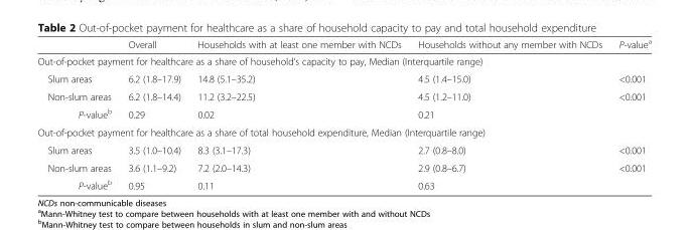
<table><thead><tr><td></td><td>Overall</td><td>Households with at least one member with NCDs</td><td>Households without any member with NCDs</td><td>P-value<sup>a</sup></td></tr></thead><tbody><tr><td colspan="5">Out-of-pocket payment for healthcare as a share of household’s capacity to pay, Median (Interquartile range)</td></tr><tr><td>Slum areas</td><td>6.2 (1.8–17.9)</td><td>14.8 (5.1–35.2)</td><td>4.5 (1.4–15.0)</td><td>&lt;0.001</td></tr><tr><td>Non-slum areas</td><td>6.2 (1.8–14.4)</td><td>11.2 (3.2–22.5)</td><td>4.5 (1.2–11.0)</td><td>&lt;0.001</td></tr><tr><td>P-value<sup>b</sup></td><td>0.29</td><td>0.02</td><td>0.21</td><td></td></tr><tr><td colspan="5">Out-of-pocket payment for healthcare as a share of total household expenditure, Median (Interquartile range)</td></tr><tr><td>Slum areas</td><td>3.5 (1.0–10.4)</td><td>8.3 (3.1–17.3)</td><td>2.7 (0.8–8.0)</td><td>&lt;0.001</td></tr><tr><td>Non-slum areas</td><td>3.6 (1.1–9.2)</td><td>7.2 (2.0–14.3)</td><td>2.9 (0.8–6.7)</td><td>&lt;0.001</td></tr><tr><td>P-value<sup>b</sup></td><td>0.95</td><td>0.11</td><td>0.63</td><td></td></tr></tbody></table>